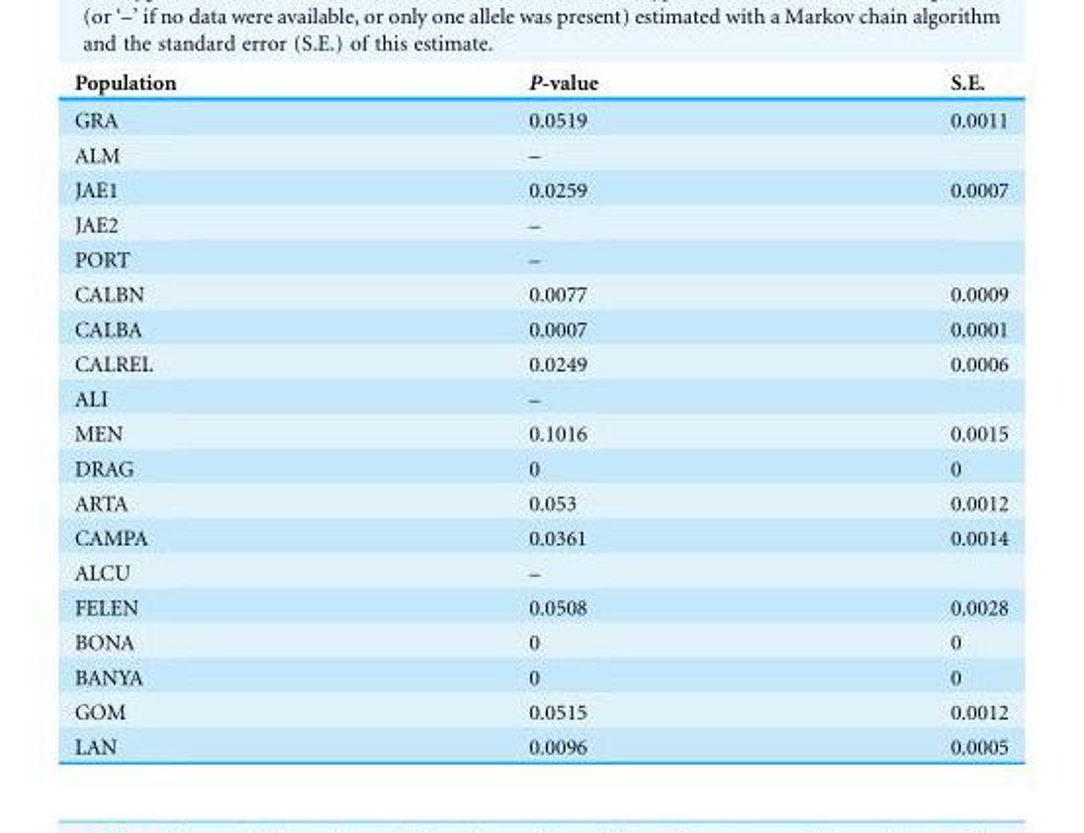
<table><thead><tr><td>Population</td><td>P-value</td><td>S.E.</td></tr></thead><tbody><tr><td>GRA</td><td>0.0519</td><td>0.0011</td></tr><tr><td>ALM</td><td>–</td><td></td></tr><tr><td>JAE1</td><td>0.0259</td><td>0.0007</td></tr><tr><td>JAE2</td><td>–</td><td></td></tr><tr><td>PORT</td><td>–</td><td></td></tr><tr><td>CALBN</td><td>0.0077</td><td>0.0009</td></tr><tr><td>CALBA</td><td>0.0007</td><td>0.0001</td></tr><tr><td>CALREL</td><td>0.0249</td><td>0.0006</td></tr><tr><td>ALI</td><td>–</td><td></td></tr><tr><td>MEN</td><td>0.1016</td><td>0.0015</td></tr><tr><td>DRAG</td><td>0</td><td>0</td></tr><tr><td>ARTA</td><td>0.053</td><td>0.0012</td></tr><tr><td>CAMPA</td><td>0.0361</td><td>0.0014</td></tr><tr><td>ALCU</td><td>–</td><td></td></tr><tr><td>FELEN</td><td>0.0508</td><td>0.0028</td></tr><tr><td>BONA</td><td>0</td><td>0</td></tr><tr><td>BANYA</td><td>0</td><td>0</td></tr><tr><td>GOM</td><td>0.0515</td><td>0.0012</td></tr><tr><td>LAN</td><td>0.0096</td><td>0.0005</td></tr></tbody></table>